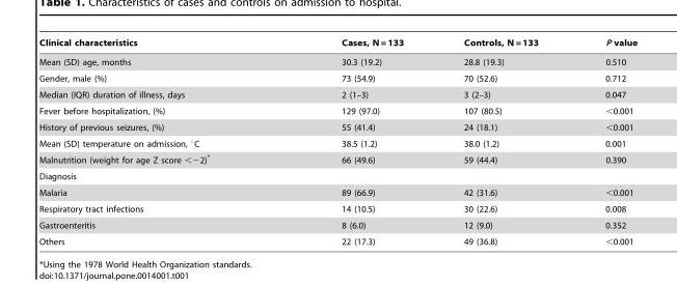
<table><thead><tr><td>Clinical characteristics</td><td>Cases, N = 133</td><td>Controls, N = 133</td><td>P value</td></tr></thead><tbody><tr><td>Mean (SD) age, months</td><td>30.3 (19.2)</td><td>28.8 (19.3)</td><td>0.510</td></tr><tr><td>Gender, male (%)</td><td>73 (54.9)</td><td>70 (52.6)</td><td>0.712</td></tr><tr><td>Median (IQR) duration of illness, days</td><td>2 (1–3)</td><td>3 (2–3)</td><td>0.047</td></tr><tr><td>Fever before hospitalization, (%)</td><td>129 (97.0)</td><td>107 (80.5)</td><td>&lt;0.001</td></tr><tr><td>History of previous seizures, (%)</td><td>55 (41.4)</td><td>24 (18.1)</td><td>&lt;0.001</td></tr><tr><td>Mean (SD) temperature on admission, °C</td><td>38.5 (1.2)</td><td>38.0 (1.2)</td><td>0.001</td></tr><tr><td>Malnutrition (weight for age Z score &lt;−2)*</td><td>66 (49.6)</td><td>59 (44.4)</td><td>0.390</td></tr><tr><td colspan="4">Diagnosis</td></tr><tr><td>Malaria</td><td>89 (66.9)</td><td>42 (31.6)</td><td>&lt;0.001</td></tr><tr><td>Respiratory tract infections</td><td>14 (10.5)</td><td>30 (22.6)</td><td>0.008</td></tr><tr><td>Gastroenteritis</td><td>8 (6.0)</td><td>12 (9.0)</td><td>0.352</td></tr><tr><td>Others</td><td>22 (17.3)</td><td>49 (36.8)</td><td>&lt;0.001</td></tr></tbody></table>